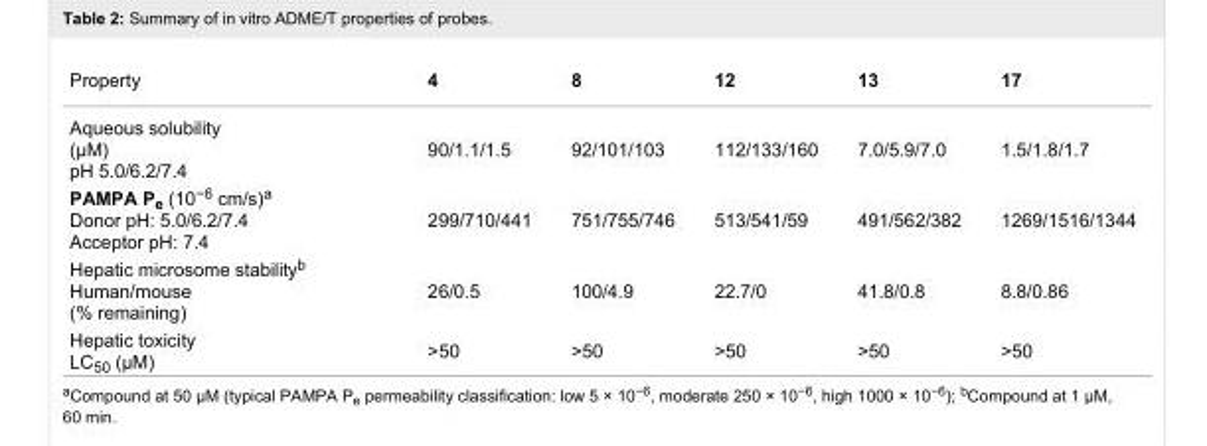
<table><tbody><tr><td>Property</td><td>4</td><td>8</td><td>12</td><td>13</td><td>17</td></tr><tr><td>Aqueous solubility (μM) pH 5.0/6.2/7.4</td><td>90/1.1/1.5</td><td>92/101/103</td><td>112/133/160</td><td>7.0/5.9/7.0</td><td>1.5/1.8/1.7</td></tr><tr><td>PAMPA P<sub>e</sub> (10<sup>−6</sup> cm/s)<sup>a</sup> Donor pH: 5.0/6.2/7.4 Acceptor pH: 7.4</td><td>299/710/441</td><td>751/755/746</td><td>513/541/59</td><td>491/562/382</td><td>1269/1516/1344</td></tr><tr><td>Hepatic microsome stability<sup>b</sup> Human/mouse (% remaining)</td><td>26/0.5</td><td>100/4.9</td><td>22.7/0</td><td>41.8/0.8</td><td>8.8/0.86</td></tr><tr><td>Hepatic toxicity LC<sub>50</sub> (µM)</td><td>&gt;50</td><td>&gt;50</td><td>&gt;50</td><td>&gt;50</td><td>&gt;50</td></tr></tbody></table>